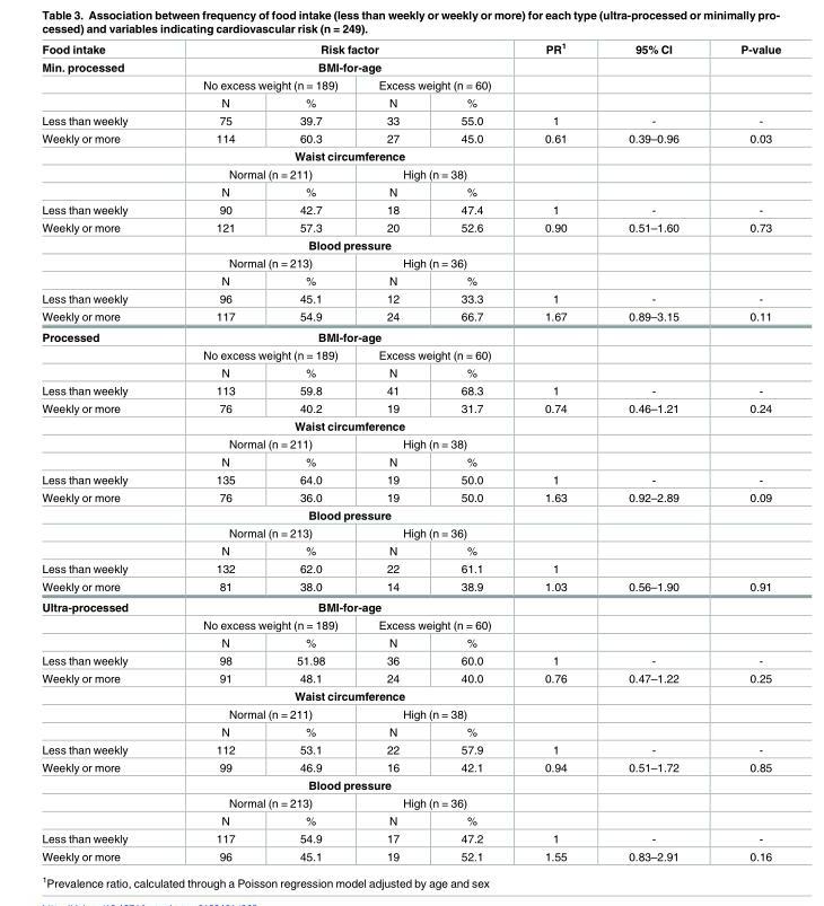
<table><thead><tr><td rowspan="4">Food intake Min. processed</td><td rowspan="2" colspan="4">Risk factor BMI-for-age</td><td rowspan="4">PR<sup>1</sup></td><td rowspan="4">95% CI</td><td rowspan="4">P-value</td></tr><tr></tr><tr><td colspan="2">No excess weight (n = 189)</td><td colspan="2">Excess weight (n = 60)</td></tr><tr><td>N</td><td>%</td><td>N</td><td>%</td></tr></thead><tbody><tr><td>Less than weekly</td><td>75</td><td>39.7</td><td>33</td><td>55.0</td><td>1</td><td>-</td><td>-</td></tr><tr><td rowspan="4">Weekly or more</td><td>114</td><td>60.3</td><td>27</td><td>45.0</td><td>0.61</td><td>0.39–0.96</td><td>0.03</td></tr><tr><td colspan="4">Waist circumference</td><td></td><td></td><td></td></tr><tr><td colspan="2">Normal (n = 211)</td><td colspan="2">High (n = 38)</td><td></td><td></td><td></td></tr><tr><td>N</td><td>%</td><td>N</td><td>%</td><td></td><td></td><td></td></tr><tr><td>Less than weekly</td><td>90</td><td>42.7</td><td>18</td><td>47.4</td><td>1</td><td>-</td><td>-</td></tr><tr><td rowspan="4">Weekly or more</td><td>121</td><td>57.3</td><td>20</td><td>52.6</td><td>0.90</td><td>0.51–1.60</td><td>0.73</td></tr><tr><td colspan="4">Blood pressure</td><td></td><td></td><td></td></tr><tr><td colspan="2">Normal (n = 213)</td><td colspan="2">High (n = 36)</td><td></td><td></td><td></td></tr><tr><td>N</td><td>%</td><td>N</td><td>%</td><td></td><td></td><td></td></tr><tr><td>Less than weekly</td><td>96</td><td>45.1</td><td>12</td><td>33.3</td><td>1</td><td>-</td><td>-</td></tr><tr><td>Weekly or more</td><td>117</td><td>54.9</td><td>24</td><td>66.7</td><td>1.67</td><td>0.89–3.15</td><td>0.11</td></tr><tr><td rowspan="3">Processed</td><td colspan="4">BMI-for-age</td><td></td><td></td><td></td></tr><tr><td colspan="2">No excess weight (n = 189)</td><td colspan="2">Excess weight (n = 60)</td><td></td><td></td><td></td></tr><tr><td>N</td><td>%</td><td>N</td><td>%</td><td></td><td></td><td></td></tr><tr><td>Less than weekly</td><td>113</td><td>59.8</td><td>41</td><td>68.3</td><td>1</td><td>-</td><td>-</td></tr><tr><td rowspan="4">Weekly or more</td><td>76</td><td>40.2</td><td>19</td><td>31.7</td><td>0.74</td><td>0.46–1.21</td><td>0.24</td></tr><tr><td colspan="4">Waist circumference</td><td></td><td></td><td></td></tr><tr><td colspan="2">Normal (n = 211)</td><td colspan="2">High (n = 38)</td><td></td><td></td><td></td></tr><tr><td>N</td><td>%</td><td>N</td><td>%</td><td></td><td></td><td></td></tr><tr><td>Less than weekly</td><td>135</td><td>64.0</td><td>19</td><td>50.0</td><td>1</td><td>-</td><td>-</td></tr><tr><td rowspan="4">Weekly or more</td><td>76</td><td>36.0</td><td>19</td><td>50.0</td><td>1.63</td><td>0.92–2.89</td><td>0.09</td></tr><tr><td colspan="4">Blood pressure</td><td></td><td></td><td></td></tr><tr><td colspan="2">Normal (n = 213)</td><td colspan="2">High (n = 36)</td><td></td><td></td><td></td></tr><tr><td>N</td><td>%</td><td>N</td><td>%</td><td></td><td></td><td></td></tr><tr><td>Less than weekly</td><td>132</td><td>62.0</td><td>22</td><td>61.1</td><td>1</td><td></td><td></td></tr><tr><td>Weekly or more</td><td>81</td><td>38.0</td><td>14</td><td>38.9</td><td>1.03</td><td>0.56–1.90</td><td>0.91</td></tr><tr><td rowspan="3">Ultra-processed</td><td colspan="4">BMI-for-age</td><td></td><td></td><td></td></tr><tr><td colspan="2">No excess weight (n = 189)</td><td colspan="2">Excess weight (n = 60)</td><td></td><td></td><td></td></tr><tr><td>N</td><td>%</td><td>N</td><td>%</td><td></td><td></td><td></td></tr><tr><td>Less than weekly</td><td>98</td><td>51.98</td><td>36</td><td>60.0</td><td>1</td><td>-</td><td>-</td></tr><tr><td rowspan="4">Weekly or more</td><td>91</td><td>48.1</td><td>24</td><td>40.0</td><td>0.76</td><td>0.47–1.22</td><td>0.25</td></tr><tr><td colspan="4">Waist circumference</td><td></td><td></td><td></td></tr><tr><td colspan="2">Normal (n = 211)</td><td colspan="2">High (n = 38)</td><td></td><td></td><td></td></tr><tr><td>N</td><td>%</td><td>N</td><td>%</td><td></td><td></td><td></td></tr><tr><td>Less than weekly</td><td>112</td><td>53.1</td><td>22</td><td>57.9</td><td>1</td><td>-</td><td>-</td></tr><tr><td rowspan="4">Weekly or more</td><td>99</td><td>46.9</td><td>16</td><td>42.1</td><td>0.94</td><td>0.51–1.72</td><td>0.85</td></tr><tr><td colspan="4">Blood pressure</td><td></td><td></td><td></td></tr><tr><td colspan="2">Normal (n = 213)</td><td colspan="2">High (n = 36)</td><td></td><td></td><td></td></tr><tr><td>N</td><td>%</td><td>N</td><td>%</td><td></td><td></td><td></td></tr><tr><td>Less than weekly</td><td>117</td><td>54.9</td><td>17</td><td>47.2</td><td>1</td><td>-</td><td>-</td></tr><tr><td>Weekly or more</td><td>96</td><td>45.1</td><td>19</td><td>52.1</td><td>1.55</td><td>0.83–2.91</td><td>0.16</td></tr></tbody></table>